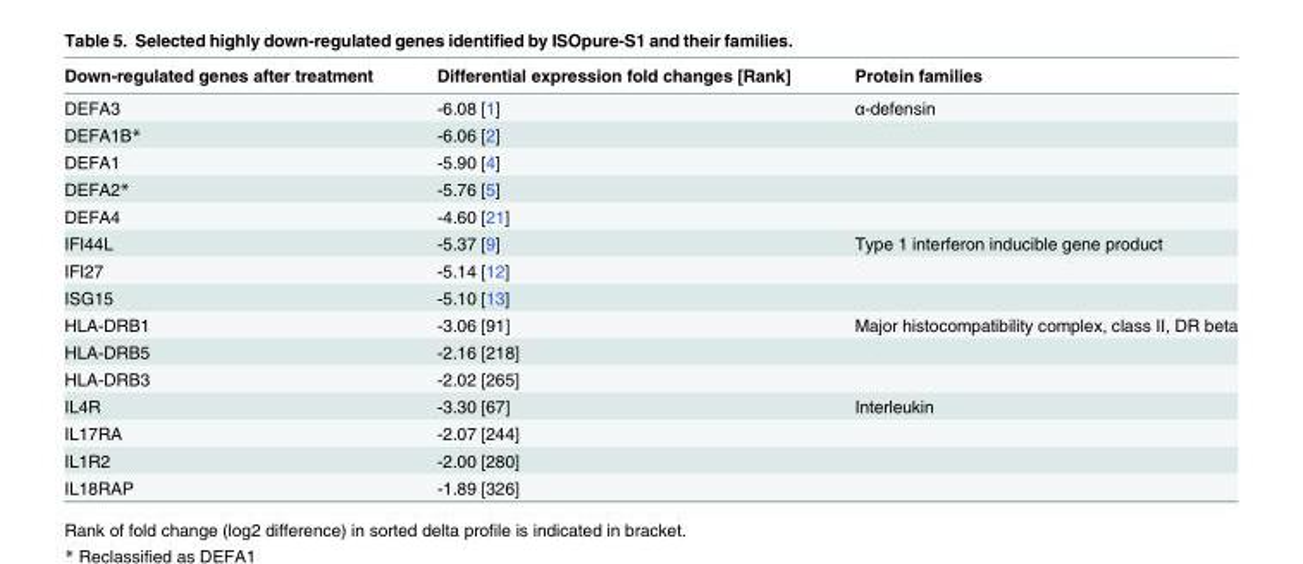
<table><thead><tr><td>Down-regulated genes after treatment</td><td>Differential expression fold changes [Rank]</td><td>Protein families</td></tr></thead><tbody><tr><td>DEFA3</td><td>-6.08 [1]</td><td>α-defensin</td></tr><tr><td>DEFA1B*</td><td>-6.06 [2]</td><td></td></tr><tr><td>DEFA1</td><td>-5.90 [4]</td><td></td></tr><tr><td>DEFA2*</td><td>-5.76 [5]</td><td></td></tr><tr><td>DEFA4</td><td>-4.60 [21]</td><td></td></tr><tr><td>IFI44L</td><td>-5.37 [9]</td><td>Type 1 interferon inducible gene product</td></tr><tr><td>IFI27</td><td>-5.14 [12]</td><td></td></tr><tr><td>ISG15</td><td>-5.10 [13]</td><td></td></tr><tr><td>HLA-DRB1</td><td>-3.06 [91]</td><td>Major histocompatibility complex, class II, DR beta</td></tr><tr><td>HLA-DRB5</td><td>-2.16 [218]</td><td></td></tr><tr><td>HLA-DRB3</td><td>-2.02 [265]</td><td></td></tr><tr><td>IL4R</td><td>-3.30 [67]</td><td>Interleukin</td></tr><tr><td>IL17RA</td><td>-2.07 [244]</td><td></td></tr><tr><td>IL1R2</td><td>-2.00 [280]</td><td></td></tr><tr><td>IL18RAP</td><td>-1.89 [326]</td><td></td></tr></tbody></table>